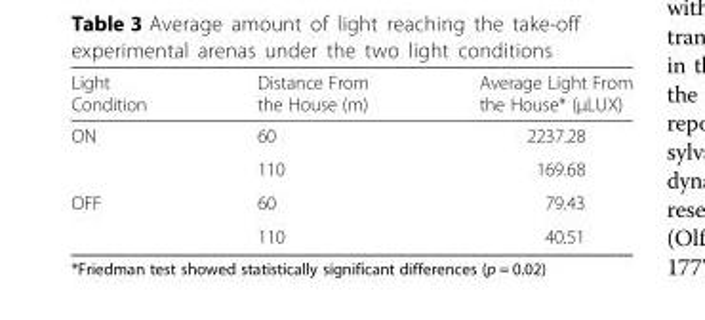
<table><thead><tr><td>Light Condition</td><td>Distance From the House (m)</td><td>Average Light From the House* (μLUX)</td></tr></thead><tbody><tr><td rowspan="2">ON</td><td>60</td><td>2237.28</td></tr><tr><td>110</td><td>169.68</td></tr><tr><td rowspan="2">OFF</td><td>60</td><td>79.43</td></tr><tr><td>110</td><td>40.51</td></tr></tbody></table>